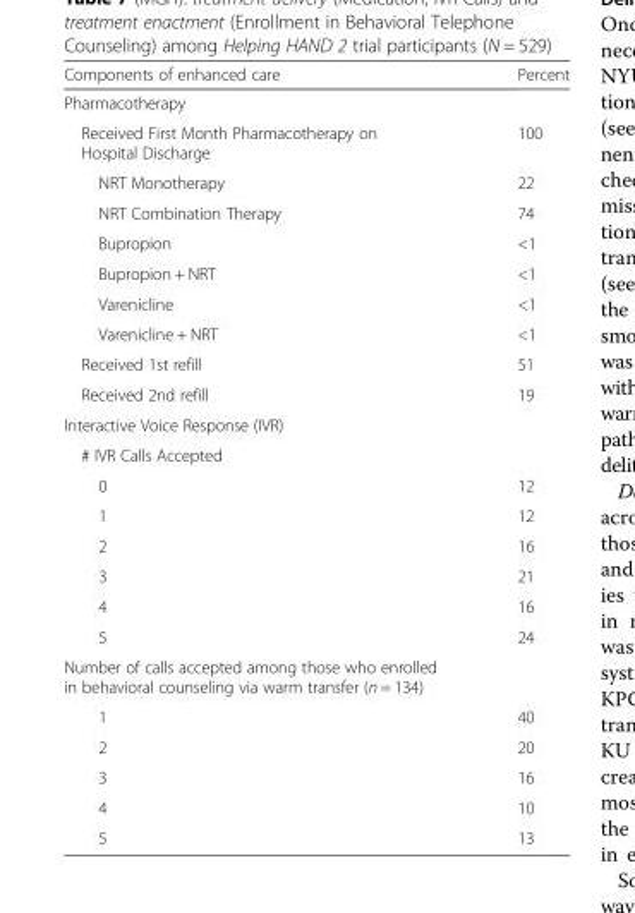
<table><thead><tr><td>Components of enhanced care</td><td>Percent</td></tr></thead><tbody><tr><td colspan="2">Pharmacotherapy</td></tr><tr><td>Received First Month Pharmacotherapy on Hospital Discharge</td><td>100</td></tr><tr><td>NRT Monotherapy</td><td>22</td></tr><tr><td>NRT Combination Therapy</td><td>74</td></tr><tr><td>Bupropion</td><td>&lt;1</td></tr><tr><td>Bupropion + NRT</td><td>&lt;1</td></tr><tr><td>Varenicline</td><td>&lt;1</td></tr><tr><td>Varenicline + NRT</td><td>&lt;1</td></tr><tr><td>Received 1st refill</td><td>51</td></tr><tr><td>Received 2nd refill</td><td>19</td></tr><tr><td colspan="2">Interactive Voice Response (IVR)</td></tr><tr><td colspan="2"># IVR Calls Accepted</td></tr><tr><td>0</td><td>12</td></tr><tr><td>1</td><td>12</td></tr><tr><td>2</td><td>16</td></tr><tr><td>3</td><td>21</td></tr><tr><td>4</td><td>16</td></tr><tr><td>5</td><td>24</td></tr><tr><td colspan="2">Number of calls accepted among those who enrolled in behavioral counseling via warm transfer (n = 134)</td></tr><tr><td>1</td><td>40</td></tr><tr><td>2</td><td>20</td></tr><tr><td>3</td><td>16</td></tr><tr><td>4</td><td>10</td></tr><tr><td>5</td><td>13</td></tr></tbody></table>